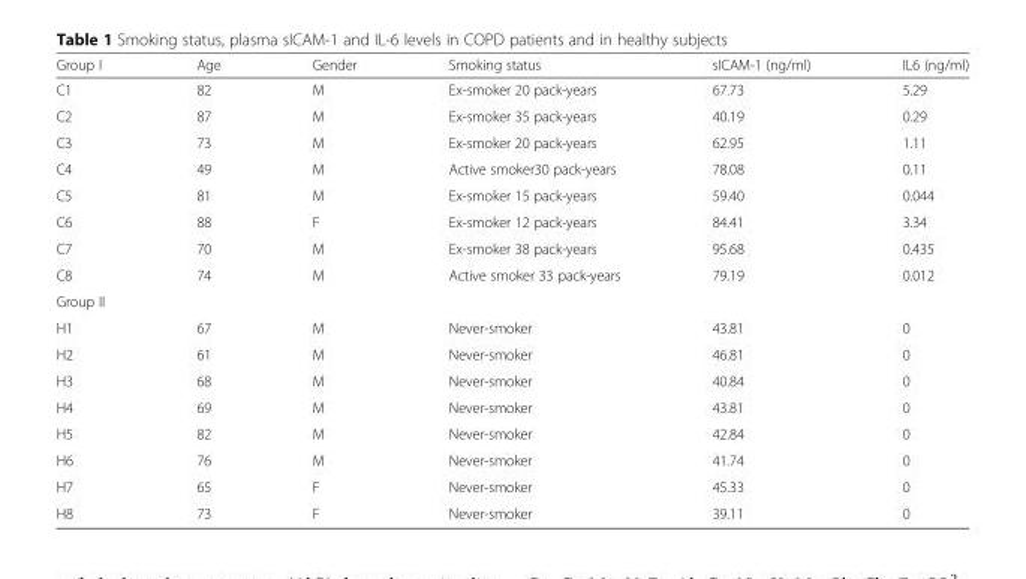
<table><thead><tr><td>Group I</td><td>Age</td><td>Gender</td><td>Smoking status</td><td>sICAM-1 (ng/ml)</td><td>IL6 (ng/ml)</td></tr></thead><tbody><tr><td>C1</td><td>82</td><td>M</td><td>Ex-smoker 20 pack-years</td><td>67.73</td><td>5.29</td></tr><tr><td>C2</td><td>87</td><td>M</td><td>Ex-smoker 35 pack-years</td><td>40.19</td><td>0.29</td></tr><tr><td>C3</td><td>73</td><td>M</td><td>Ex-smoker 20 pack-years</td><td>62.95</td><td>1.11</td></tr><tr><td>C4</td><td>49</td><td>M</td><td>Active smoker30 pack-years</td><td>78.08</td><td>0.11</td></tr><tr><td>C5</td><td>81</td><td>M</td><td>Ex-smoker 15 pack-years</td><td>59.40</td><td>0.044</td></tr><tr><td>C6</td><td>88</td><td>F</td><td>Ex-smoker 12 pack-years</td><td>84.41</td><td>3.34</td></tr><tr><td>C7</td><td>70</td><td>M</td><td>Ex-smoker 38 pack-years</td><td>95.68</td><td>0.435</td></tr><tr><td>C8</td><td>74</td><td>M</td><td>Active smoker 33 pack-years</td><td>79.19</td><td>0.012</td></tr><tr><td colspan="6">Group II</td></tr><tr><td>H1</td><td>67</td><td>M</td><td>Never-smoker</td><td>43.81</td><td>0</td></tr><tr><td>H2</td><td>61</td><td>M</td><td>Never-smoker</td><td>46.81</td><td>0</td></tr><tr><td>H3</td><td>68</td><td>M</td><td>Never-smoker</td><td>40.84</td><td>0</td></tr><tr><td>H4</td><td>69</td><td>M</td><td>Never-smoker</td><td>43.81</td><td>0</td></tr><tr><td>H5</td><td>82</td><td>M</td><td>Never-smoker</td><td>42.84</td><td>0</td></tr><tr><td>H6</td><td>76</td><td>M</td><td>Never-smoker</td><td>41.74</td><td>0</td></tr><tr><td>H7</td><td>65</td><td>F</td><td>Never-smoker</td><td>45.33</td><td>0</td></tr><tr><td>H8</td><td>73</td><td>F</td><td>Never-smoker</td><td>39.11</td><td>0</td></tr></tbody></table>